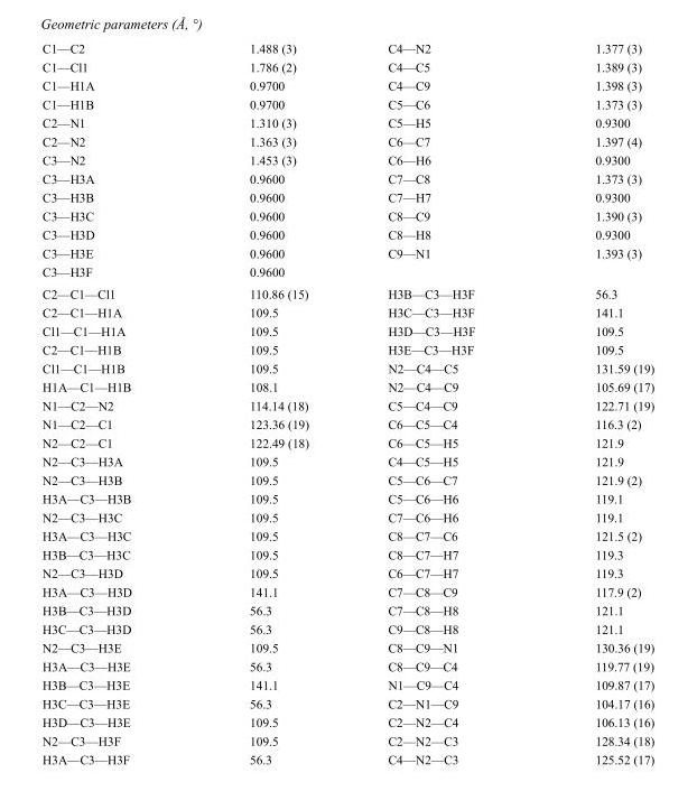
<table><tbody><tr><td>C1—C2</td><td>1.488 (3)</td><td>C4—N2</td><td>1.377 (3)</td></tr><tr><td>C1—Cl1</td><td>1.786 (2)</td><td>C4—C5</td><td>1.389 (3)</td></tr><tr><td>C1—H1A</td><td>0.9700</td><td>C4—C9</td><td>1.398 (3)</td></tr><tr><td>C1—H1B</td><td>0.9700</td><td>C5—C6</td><td>1.373 (3)</td></tr><tr><td>C2—N1</td><td>1.310 (3)</td><td>C5—H5</td><td>0.9300</td></tr><tr><td>C2—N2</td><td>1.363 (3)</td><td>C6—C7</td><td>1.397 (4)</td></tr><tr><td>C3—N2</td><td>1.453 (3)</td><td>C6—H6</td><td>0.9300</td></tr><tr><td>C3—H3A</td><td>0.9600</td><td>C7—C8</td><td>1.373 (3)</td></tr><tr><td>C3—H3B</td><td>0.9600</td><td>C7—H7</td><td>0.9300</td></tr><tr><td>C3—H3C</td><td>0.9600</td><td>C8—C9</td><td>1.390 (3)</td></tr><tr><td>C3—H3D</td><td>0.9600</td><td>C8—H8</td><td>0.9300</td></tr><tr><td>C3—H3E</td><td>0.9600</td><td>C9—N1</td><td>1.393 (3)</td></tr><tr><td>C3—H3F</td><td>0.9600</td><td></td><td></td></tr><tr><td>C2—C1—Cl1</td><td>110.86 (15)</td><td>H3B—C3—H3F</td><td>56.3</td></tr><tr><td>C2—C1—H1A</td><td>109.5</td><td>H3C—C3—H3F</td><td>141.1</td></tr><tr><td>Cl1—C1—H1A</td><td>109.5</td><td>H3D—C3—H3F</td><td>109.5</td></tr><tr><td>C2—C1—H1B</td><td>109.5</td><td>H3E—C3—H3F</td><td>109.5</td></tr><tr><td>Cl1—C1—H1B</td><td>109.5</td><td>N2—C4—C5</td><td>131.59 (19)</td></tr><tr><td>H1A—C1—H1B</td><td>108.1</td><td>N2—C4—C9</td><td>105.69 (17)</td></tr><tr><td>N1—C2—N2</td><td>114.14 (18)</td><td>C5—C4—C9</td><td>122.71 (19)</td></tr><tr><td>N1—C2—C1</td><td>123.36 (19)</td><td>C6—C5—C4</td><td>116.3 (2)</td></tr><tr><td>N2—C2—C1</td><td>122.49 (18)</td><td>C6—C5—H5</td><td>121.9</td></tr><tr><td>N2—C3—H3A</td><td>109.5</td><td>C4—C5—H5</td><td>121.9</td></tr><tr><td>N2—C3—H3B</td><td>109.5</td><td>C5—C6—C7</td><td>121.9 (2)</td></tr><tr><td>H3A—C3—H3B</td><td>109.5</td><td>C5—C6—H6</td><td>119.1</td></tr><tr><td>N2—C3—H3C</td><td>109.5</td><td>C7—C6—H6</td><td>119.1</td></tr><tr><td>H3A—C3—H3C</td><td>109.5</td><td>C8—C7—C6</td><td>121.5 (2)</td></tr><tr><td>H3B—C3—H3C</td><td>109.5</td><td>C8—C7—H7</td><td>119.3</td></tr><tr><td>N2—C3—H3D</td><td>109.5</td><td>C6—C7—H7</td><td>119.3</td></tr><tr><td>H3A—C3—H3D</td><td>141.1</td><td>C7—C8—C9</td><td>117.9 (2)</td></tr><tr><td>H3B—C3—H3D</td><td>56.3</td><td>C7—C8—H8</td><td>121.1</td></tr><tr><td>H3C—C3—H3D</td><td>56.3</td><td>C9—C8—H8</td><td>121.1</td></tr><tr><td>N2—C3—H3E</td><td>109.5</td><td>C8—C9—N1</td><td>130.36 (19)</td></tr><tr><td>H3A—C3—H3E</td><td>56.3</td><td>C8—C9—C4</td><td>119.77 (19)</td></tr><tr><td>H3B—C3—H3E</td><td>141.1</td><td>N1—C9—C4</td><td>109.87 (17)</td></tr><tr><td>H3C—C3—H3E</td><td>56.3</td><td>C2—N1—C9</td><td>104.17 (16)</td></tr><tr><td>H3D—C3—H3E</td><td>109.5</td><td>C2—N2—C4</td><td>106.13 (16)</td></tr><tr><td>N2—C3—H3F</td><td>109.5</td><td>C2—N2—C3</td><td>128.34 (18)</td></tr><tr><td>H3A—C3—H3F</td><td>56.3</td><td>C4—N2—C3</td><td>125.52 (17)</td></tr></tbody></table>